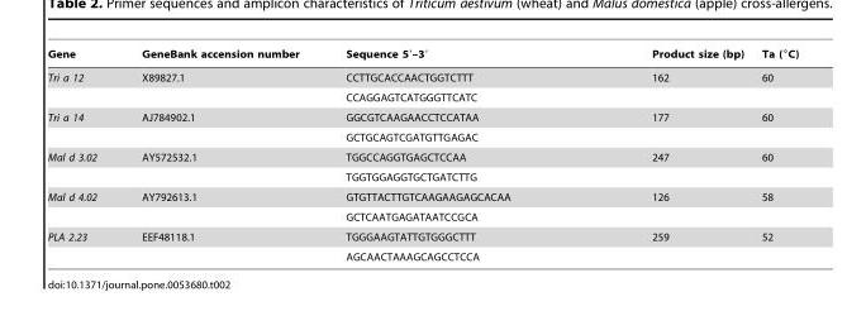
<table><thead><tr><td>Gene</td><td>GeneBank accension number</td><td>Sequence 5′–3′</td><td>Product size (bp)</td><td>Ta (°C)</td></tr></thead><tbody><tr><td rowspan="2">Tri a 12</td><td>X89827.1</td><td>CCTTGCACCAACTGGTCTTT</td><td>162</td><td>60</td></tr><tr><td></td><td>CCAGGAGTCATGGGTTCATC</td><td></td><td></td></tr><tr><td rowspan="2">Tri a 14</td><td>AJ784902.1</td><td>GGCGTCAAGAACCTCCATAA</td><td>177</td><td>60</td></tr><tr><td></td><td>GCTGCAGTCGATGTTGAGAC</td><td></td><td></td></tr><tr><td rowspan="2">Mal d 3.02</td><td>AY572532.1</td><td>TGGCCAGGTGAGCTCCAA</td><td>247</td><td>60</td></tr><tr><td></td><td>TGGTGGAGGTGCTGATCTTG</td><td></td><td></td></tr><tr><td rowspan="2">Mal d 4.02</td><td>AY792613.1</td><td>GTGTTACTTGTCAAGAAGAGCACAA</td><td>126</td><td>58</td></tr><tr><td></td><td>GCTCAATGAGATAATCCGCA</td><td></td><td></td></tr><tr><td rowspan="2">PLA 2.23</td><td>EEF48118.1</td><td>TGGGAAGTATTGTGGGCTTT</td><td>259</td><td>52</td></tr><tr><td></td><td>AGCAACTAAAGCAGCCTCCA</td><td></td><td></td></tr></tbody></table>